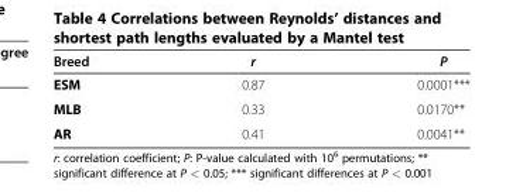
<table><thead><tr><td>Breed</td><td>r</td><td>P</td></tr></thead><tbody><tr><td>ESM</td><td>0.87</td><td>0.0001***</td></tr><tr><td>MLB</td><td>0.33</td><td>0.0170**</td></tr><tr><td>AR</td><td>0.41</td><td>0.0041**</td></tr></tbody></table>